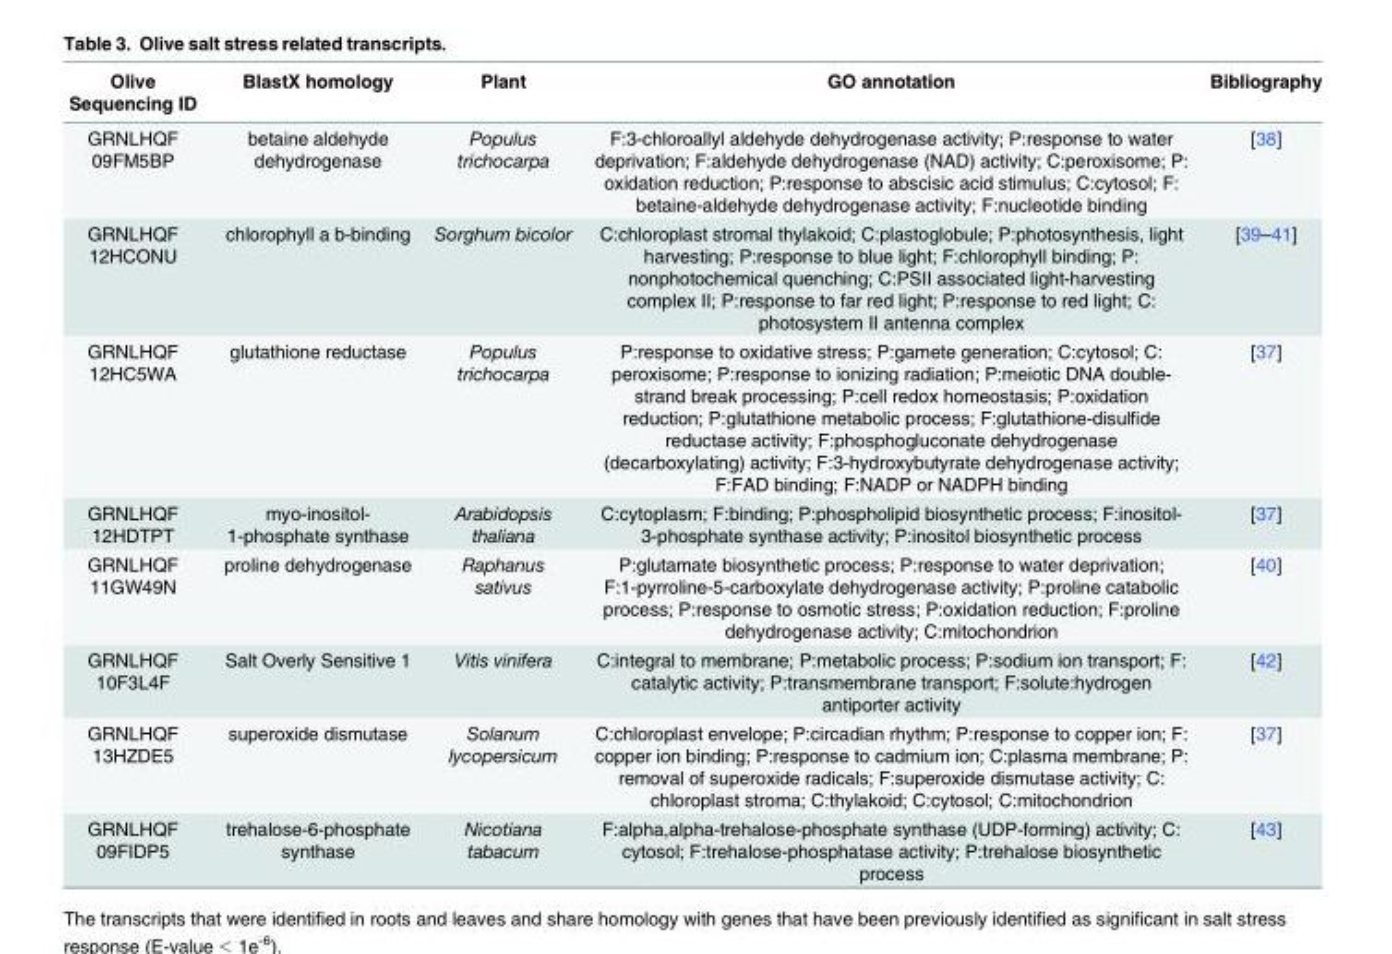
<table><thead><tr><td>Olive Sequencing ID</td><td>BlastX homology</td><td>Plant</td><td>GO annotation</td><td>Bibliography</td></tr></thead><tbody><tr><td>GRNLHQF 09FM5BP</td><td>betaine aldehyde dehydrogenase</td><td>Populus trichocarpa</td><td>F:3-chloroallyl aldehyde dehydrogenase activity; P:response to water deprivation; F:aldehyde dehydrogenase (NAD) activity; C:peroxisome; P: oxidation reduction; P:response to abscisic acid stimulus; C:cytosol; F: betaine-aldehyde dehydrogenase activity; F:nucleotide binding</td><td>[38]</td></tr><tr><td>GRNLHQF 12HCONU</td><td>chlorophyll a b-binding</td><td>Sorghum bicolor</td><td>C:chloroplast stromal thylakoid; C:plastoglobule; P:photosynthesis, light harvesting; P:response to blue light; F:chlorophyll binding; P: nonphotochemical quenching; C:PSII associated light-harvesting complex II; P:response to far red light; P:response to red light; C: photosystem II antenna complex</td><td>[39–41]</td></tr><tr><td>GRNLHQF 12HC5WA</td><td>glutathione reductase</td><td>Populus trichocarpa</td><td>P:response to oxidative stress; P:gamete generation; C:cytosol; C: peroxisome; P:response to ionizing radiation; P:meiotic DNA double- strand break processing; P:cell redox homeostasis; P:oxidation reduction; P:glutathione metabolic process; F:glutathione-disulfide reductase activity; F:phosphogluconate dehydrogenase (decarboxylating) activity; F:3-hydroxybutyrate dehydrogenase activity; F:FAD binding; F:NADP or NADPH binding</td><td>[37]</td></tr><tr><td>GRNLHQF 12HDTPT</td><td>myo-inositol- 1-phosphate synthase</td><td>Arabidopsis thaliana</td><td>C:cytoplasm; F:binding; P:phospholipid biosynthetic process; F:inositol- 3-phosphate synthase activity; P:inositol biosynthetic process</td><td>[37]</td></tr><tr><td>GRNLHQF 11GW49N</td><td>proline dehydrogenase</td><td>Raphanus sativus</td><td>P:glutamate biosynthetic process; P:response to water deprivation; F:1-pyrroline-5-carboxylate dehydrogenase activity; P:proline catabolic process; P:response to osmotic stress; P:oxidation reduction; F:proline dehydrogenase activity; C:mitochondrion</td><td>[40]</td></tr><tr><td>GRNLHQF 10F3L4F</td><td>Salt Overly Sensitive 1</td><td>Vitis vinifera</td><td>C:integral to membrane; P:metabolic process; P:sodium ion transport; F: catalytic activity; P:transmembrane transport; F:solute:hydrogen antiporter activity</td><td>[42]</td></tr><tr><td>GRNLHQF 13HZDE5</td><td>superoxide dismutase</td><td>Solanum lycopersicum</td><td>C:chloroplast envelope; P:circadian rhythm; P:response to copper ion; F: copper ion binding; P:response to cadmium ion; C:plasma membrane; P: removal of superoxide radicals; F:superoxide dismutase activity; C: chloroplast stroma; C:thylakoid; C:cytosol; C:mitochondrion</td><td>[37]</td></tr><tr><td>GRNLHQF 09FIDP5</td><td>trehalose-6-phosphate synthase</td><td>Nicotiana tabacum</td><td>F:alpha,alpha-trehalose-phosphate synthase (UDP-forming) activity; C: cytosol; F:trehalose-phosphatase activity; P:trehalose biosynthetic process</td><td>[43]</td></tr></tbody></table>